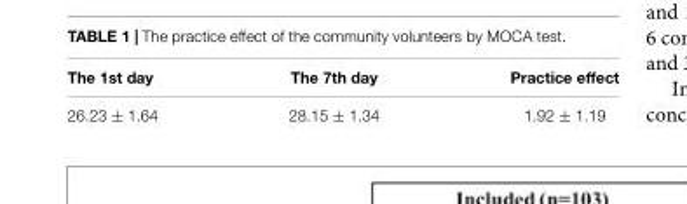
<table><thead><tr><td>The 1st day</td><td>The 7th day</td><td>Practice effect</td></tr></thead><tbody><tr><td>26.23 ± 1.64</td><td>28.15 ± 1.34</td><td>1.92 ± 1.19</td></tr></tbody></table>